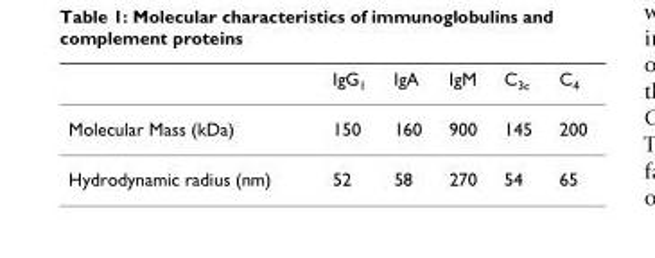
<table><thead><tr><td></td><td>IgG<sub>1</sub></td><td>IgA</td><td>IgM</td><td>C<sub>3c</sub></td><td>C<sub>4</sub></td></tr></thead><tbody><tr><td>Molecular Mass (kDa)</td><td>150</td><td>160</td><td>900</td><td>145</td><td>200</td></tr><tr><td>Hydrodynamic radius (nm)</td><td>52</td><td>58</td><td>270</td><td>54</td><td>65</td></tr></tbody></table>